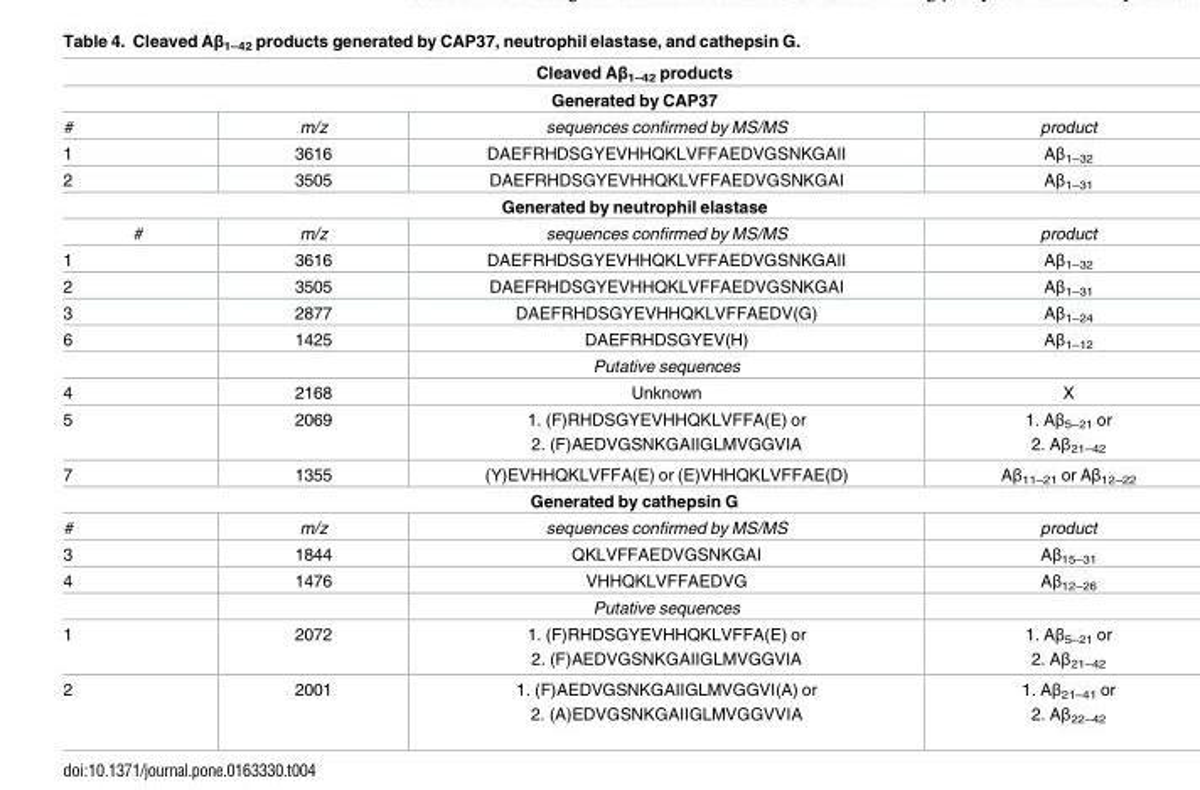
<table><thead><tr><td rowspan="2" colspan="4">Cleaved Aβ<sub>1–42</sub> products Generated by CAP37</td></tr><tr></tr><tr><td>#</td><td>m/z</td><td>sequences confirmed by MS/MS</td><td>product</td></tr></thead><tbody><tr><td>1</td><td>3616</td><td>DAEFRHDSGYEVHHQKLVFFAEDVGSNKGAII</td><td>Aβ<sub>1–32</sub></td></tr><tr><td>2</td><td>3505</td><td>DAEFRHDSGYEVHHQKLVFFAEDVGSNKGAI</td><td>Aβ<sub>1–31</sub></td></tr><tr><td colspan="4">Generated by neutrophil elastase</td></tr><tr><td>#</td><td>m/z</td><td>sequences confirmed by MS/MS</td><td>product</td></tr><tr><td>1</td><td>3616</td><td>DAEFRHDSGYEVHHQKLVFFAEDVGSNKGAII</td><td>Aβ<sub>1–32</sub></td></tr><tr><td>2</td><td>3505</td><td>DAEFRHDSGYEVHHQKLVFFAEDVGSNKGAI</td><td>Aβ<sub>1–31</sub></td></tr><tr><td>3</td><td>2877</td><td>DAEFRHDSGYEVHHQKLVFFAEDV(G)</td><td>Aβ<sub>1–24</sub></td></tr><tr><td rowspan="2">6</td><td>1425</td><td>DAEFRHDSGYEV(H)</td><td>Aβ<sub>1–12</sub></td></tr><tr><td></td><td>Putative sequences</td><td></td></tr><tr><td>4</td><td>2168</td><td>Unknown</td><td>X</td></tr><tr><td>5</td><td>2069</td><td>1. (F)RHDSGYEVHHQKLVFFA(E) or 2. (F)AEDVGSNKGAIIGLMVGGVIA</td><td>1. Aβ5–21 or 2. Aβ21–42</td></tr><tr><td>7</td><td>1355</td><td>(Y)EVHHQKLVFFA(E) or (E)VHHQKLVFFAE(D)</td><td>Aβ<sub>11–21</sub> or Aβ<sub>12–22</sub></td></tr><tr><td colspan="4">Generated by cathepsin G</td></tr><tr><td>#</td><td>m/z</td><td>sequences confirmed by MS/MS</td><td>product</td></tr><tr><td>3</td><td>1844</td><td>QKLVFFAEDVGSNKGAI</td><td>Aβ<sub>15–31</sub></td></tr><tr><td rowspan="2">4</td><td>1476</td><td>VHHQKLVFFAEDVG</td><td>Aβ<sub>12–26</sub></td></tr><tr><td></td><td>Putative sequences</td><td></td></tr><tr><td>1</td><td>2072</td><td>1. (F)RHDSGYEVHHQKLVFFA(E) or 2. (F)AEDVGSNKGAIIGLMVGGVIA</td><td>1. Aβ5–21 or 2. Aβ21–42</td></tr><tr><td>2</td><td>2001</td><td>1. (F)AEDVGSNKGAIIGLMVGGVI(A) or 2. (A)EDVGSNKGAIIGLMVGGVVIA</td><td>1. Aβ21–41 or 2. Aβ22–42</td></tr></tbody></table>